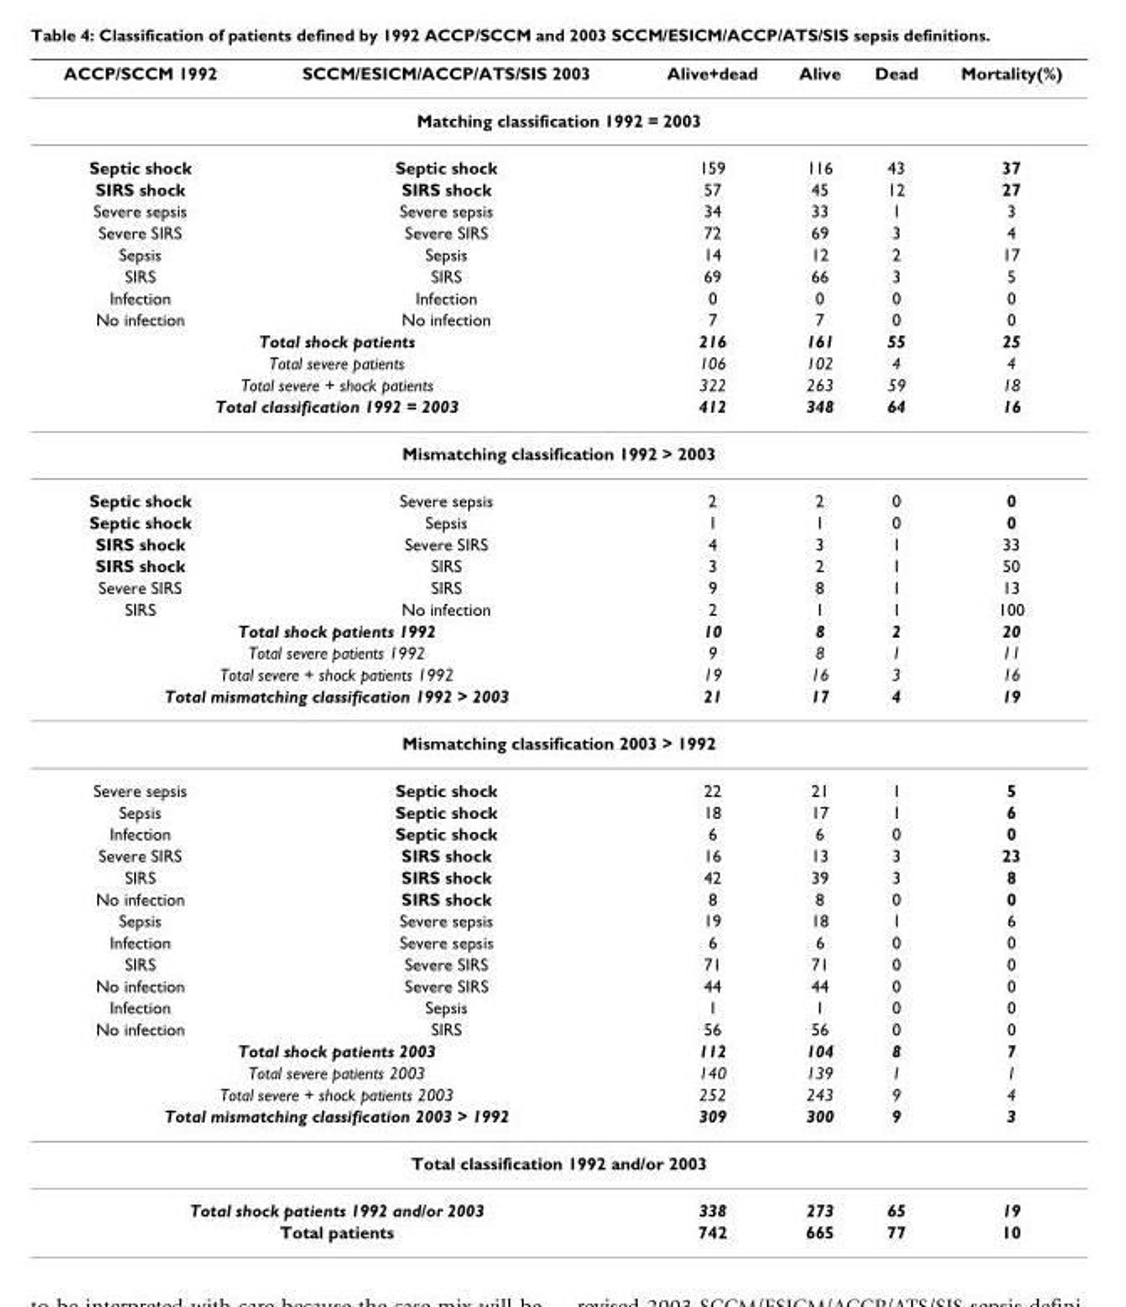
<table><thead><tr><td>ACCP/SCCM 1992</td><td>SCCM/ESICM/ACCP/ATS/SIS 2003</td><td>Alive+dead</td><td>Alive</td><td>Dead</td><td>Mortality(%)</td></tr></thead><tbody><tr><td colspan="6">Matching classification 1992 = 2003</td></tr><tr><td>Septic shock</td><td>Septic shock</td><td>159</td><td>116</td><td>43</td><td>37</td></tr><tr><td>SIRS shock</td><td>SIRS shock</td><td>57</td><td>45</td><td>12</td><td>27</td></tr><tr><td>Severe sepsis</td><td>Severe sepsis</td><td>34</td><td>33</td><td>1</td><td>3</td></tr><tr><td>Severe SIRS</td><td>Severe SIRS</td><td>72</td><td>69</td><td>3</td><td>4</td></tr><tr><td>Sepsis</td><td>Sepsis</td><td>14</td><td>12</td><td>2</td><td>17</td></tr><tr><td>SIRS</td><td>SIRS</td><td>69</td><td>66</td><td>3</td><td>5</td></tr><tr><td>Infection</td><td>Infection</td><td>0</td><td>0</td><td>0</td><td>0</td></tr><tr><td>No infection</td><td>No infection</td><td>7</td><td>7</td><td>0</td><td>0</td></tr><tr><td colspan="2">Total shock patients</td><td>216</td><td>161</td><td>55</td><td>25</td></tr><tr><td colspan="2">Total severe patients</td><td>106</td><td>102</td><td>4</td><td>4</td></tr><tr><td colspan="2">Total severe + shock patients</td><td>322</td><td>263</td><td>59</td><td>18</td></tr><tr><td colspan="2">Total classification 1992 = 2003</td><td>412</td><td>348</td><td>64</td><td>16</td></tr><tr><td colspan="6">Mismatching classification 1992 &gt; 2003</td></tr><tr><td>Septic shock</td><td>Severe sepsis</td><td>2</td><td>2</td><td>0</td><td>0</td></tr><tr><td>Septic shock</td><td>Sepsis</td><td>1</td><td>1</td><td>0</td><td>0</td></tr><tr><td>SIRS shock</td><td>Severe SIRS</td><td>4</td><td>3</td><td>1</td><td>33</td></tr><tr><td>SIRS shock</td><td>SIRS</td><td>3</td><td>2</td><td>1</td><td>50</td></tr><tr><td>Severe SIRS</td><td>SIRS</td><td>9</td><td>8</td><td>1</td><td>13</td></tr><tr><td>SIRS</td><td>No infection</td><td>2</td><td>1</td><td>1</td><td>100</td></tr><tr><td colspan="2">Total shock patients 1992</td><td>10</td><td>8</td><td>2</td><td>20</td></tr><tr><td colspan="2">Total severe patients 1992</td><td>9</td><td>8</td><td>1</td><td>11</td></tr><tr><td colspan="2">Total severe + shock patients 1992</td><td>19</td><td>16</td><td>3</td><td>16</td></tr><tr><td colspan="2">Total mismatching classification 1992 &gt; 2003</td><td>21</td><td>17</td><td>4</td><td>19</td></tr><tr><td colspan="6">Mismatching classification 2003 &gt; 1992</td></tr><tr><td>Severe sepsis</td><td>Septic shock</td><td>22</td><td>21</td><td>1</td><td>5</td></tr><tr><td>Sepsis</td><td>Septic shock</td><td>18</td><td>17</td><td>1</td><td>6</td></tr><tr><td>Infection</td><td>Septic shock</td><td>6</td><td>6</td><td>0</td><td>0</td></tr><tr><td>Severe SIRS</td><td>SIRS shock</td><td>16</td><td>13</td><td>3</td><td>23</td></tr><tr><td>SIRS</td><td>SIRS shock</td><td>42</td><td>39</td><td>3</td><td>8</td></tr><tr><td>No infection</td><td>SIRS shock</td><td>8</td><td>8</td><td>0</td><td>0</td></tr><tr><td>Sepsis</td><td>Severe sepsis</td><td>19</td><td>18</td><td>1</td><td>6</td></tr><tr><td>Infection</td><td>Severe sepsis</td><td>6</td><td>6</td><td>0</td><td>0</td></tr><tr><td>SIRS</td><td>Severe SIRS</td><td>71</td><td>71</td><td>0</td><td>0</td></tr><tr><td>No infection</td><td>Severe SIRS</td><td>44</td><td>44</td><td>0</td><td>0</td></tr><tr><td>Infection</td><td>Sepsis</td><td>1</td><td>1</td><td>0</td><td>0</td></tr><tr><td>No infection</td><td>SIRS</td><td>56</td><td>56</td><td>0</td><td>0</td></tr><tr><td colspan="2">Total shock patients 2003</td><td>112</td><td>104</td><td>8</td><td>7</td></tr><tr><td colspan="2">Total severe patients 2003</td><td>140</td><td>139</td><td>1</td><td>1</td></tr><tr><td colspan="2">Total severe + shock patients 2003</td><td>252</td><td>243</td><td>9</td><td>4</td></tr><tr><td colspan="2">Total mismatching classification 2003 &gt; 1992</td><td>309</td><td>300</td><td>9</td><td>3</td></tr><tr><td colspan="6">Total classification 1992 and/or 2003</td></tr><tr><td colspan="2">Total shock patients 1992 and/or 2003</td><td>338</td><td>273</td><td>65</td><td>19</td></tr><tr><td colspan="2">Total patients</td><td>742</td><td>665</td><td>77</td><td>10</td></tr></tbody></table>